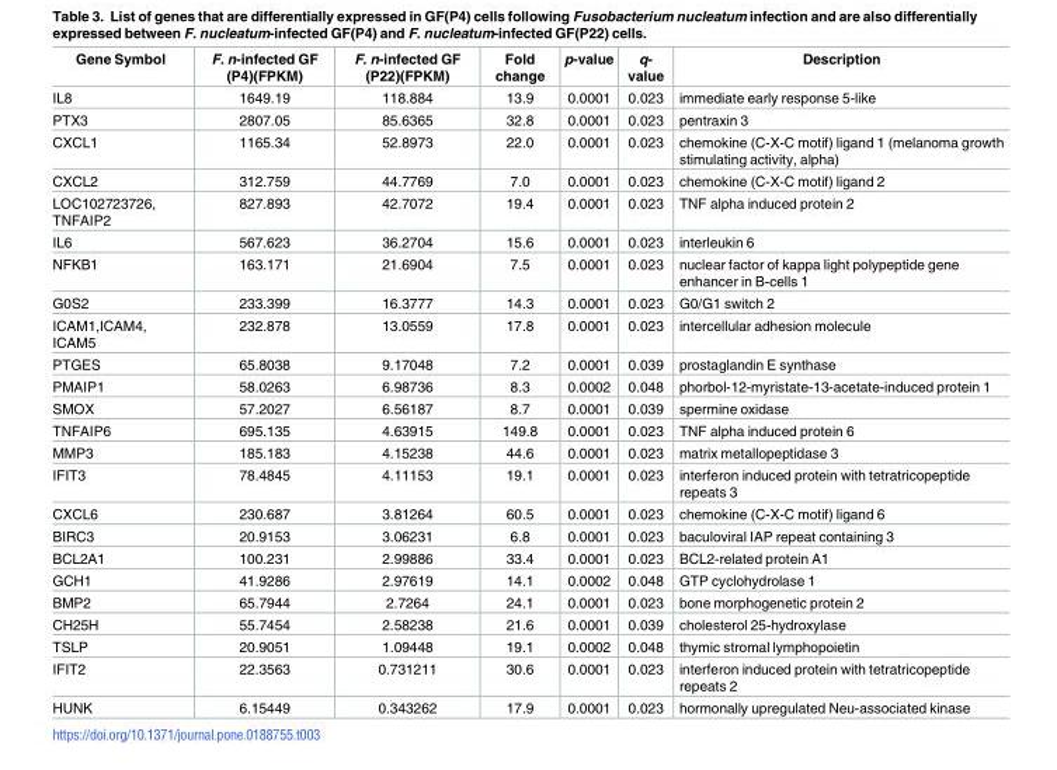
<table><thead><tr><td>Gene Symbol</td><td>F. n-infected GF (P4)(FPKM)</td><td>F. n-infected GF (P22)(FPKM)</td><td>Fold change</td><td>p-value</td><td>q- value</td><td>Description</td></tr></thead><tbody><tr><td>IL8</td><td>1649.19</td><td>118.884</td><td>13.9</td><td>0.0001</td><td>0.023</td><td>immediate early response 5-like</td></tr><tr><td>PTX3</td><td>2807.05</td><td>85.6365</td><td>32.8</td><td>0.0001</td><td>0.023</td><td>pentraxin 3</td></tr><tr><td>CXCL1</td><td>1165.34</td><td>52.8973</td><td>22.0</td><td>0.0001</td><td>0.023</td><td>chemokine (C-X-C motif) ligand 1 (melanoma growth stimulating activity, alpha)</td></tr><tr><td>CXCL2</td><td>312.759</td><td>44.7769</td><td>7.0</td><td>0.0001</td><td>0.023</td><td>chemokine (C-X-C motif) ligand 2</td></tr><tr><td>LOC102723726, TNFAIP2</td><td>827.893</td><td>42.7072</td><td>19.4</td><td>0.0001</td><td>0.023</td><td>TNF alpha induced protein 2</td></tr><tr><td>IL6</td><td>567.623</td><td>36.2704</td><td>15.6</td><td>0.0001</td><td>0.023</td><td>interleukin 6</td></tr><tr><td>NFKB1</td><td>163.171</td><td>21.6904</td><td>7.5</td><td>0.0001</td><td>0.023</td><td>nuclear factor of kappa light polypeptide gene enhancer in B-cells 1</td></tr><tr><td>G0S2</td><td>233.399</td><td>16.3777</td><td>14.3</td><td>0.0001</td><td>0.023</td><td>G0/G1 switch 2</td></tr><tr><td>ICAM1,ICAM4, ICAM5</td><td>232.878</td><td>13.0559</td><td>17.8</td><td>0.0001</td><td>0.023</td><td>intercellular adhesion molecule</td></tr><tr><td>PTGES</td><td>65.8038</td><td>9.17048</td><td>7.2</td><td>0.0001</td><td>0.039</td><td>prostaglandin E synthase</td></tr><tr><td>PMAIP1</td><td>58.0263</td><td>6.98736</td><td>8.3</td><td>0.0002</td><td>0.048</td><td>phorbol-12-myristate-13-acetate-induced protein 1</td></tr><tr><td>SMOX</td><td>57.2027</td><td>6.56187</td><td>8.7</td><td>0.0001</td><td>0.039</td><td>spermine oxidase</td></tr><tr><td>TNFAIP6</td><td>695.135</td><td>4.63915</td><td>149.8</td><td>0.0001</td><td>0.023</td><td>TNF alpha induced protein 6</td></tr><tr><td>MMP3</td><td>185.183</td><td>4.15238</td><td>44.6</td><td>0.0001</td><td>0.023</td><td>matrix metallopeptidase 3</td></tr><tr><td>IFIT3</td><td>78.4845</td><td>4.11153</td><td>19.1</td><td>0.0001</td><td>0.023</td><td>interferon induced protein with tetratricopeptide repeats 3</td></tr><tr><td>CXCL6</td><td>230.687</td><td>3.81264</td><td>60.5</td><td>0.0001</td><td>0.023</td><td>chemokine (C-X-C motif) ligand 6</td></tr><tr><td>BIRC3</td><td>20.9153</td><td>3.06231</td><td>6.8</td><td>0.0001</td><td>0.023</td><td>baculoviral IAP repeat containing 3</td></tr><tr><td>BCL2A1</td><td>100.231</td><td>2.99886</td><td>33.4</td><td>0.0001</td><td>0.023</td><td>BCL2-related protein A1</td></tr><tr><td>GCH1</td><td>41.9286</td><td>2.97619</td><td>14.1</td><td>0.0002</td><td>0.048</td><td>GTP cyclohydrolase 1</td></tr><tr><td>BMP2</td><td>65.7944</td><td>2.7264</td><td>24.1</td><td>0.0001</td><td>0.023</td><td>bone morphogenetic protein 2</td></tr><tr><td>CH25H</td><td>55.7454</td><td>2.58238</td><td>21.6</td><td>0.0001</td><td>0.039</td><td>cholesterol 25-hydroxylase</td></tr><tr><td>TSLP</td><td>20.9051</td><td>1.09448</td><td>19.1</td><td>0.0002</td><td>0.048</td><td>thymic stromal lymphopoietin</td></tr><tr><td>IFIT2</td><td>22.3563</td><td>0.731211</td><td>30.6</td><td>0.0001</td><td>0.023</td><td>interferon induced protein with tetratricopeptide repeats 2</td></tr><tr><td>HUNK</td><td>6.15449</td><td>0.343262</td><td>17.9</td><td>0.0001</td><td>0.023</td><td>hormonally upregulated Neu-associated kinase</td></tr></tbody></table>